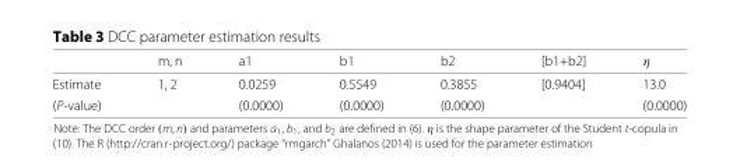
<table><thead><tr><td></td><td>m, n</td><td>a1</td><td>b1</td><td>b2</td><td>[b1+b2]</td><td>η</td></tr></thead><tbody><tr><td>Estimate</td><td>1, 2</td><td>0.0259</td><td>0.5549</td><td>0.3855</td><td>[0.9404]</td><td>13.0</td></tr><tr><td>(P-value)</td><td></td><td>(0.0000)</td><td>(0.0000)</td><td>(0.0000)</td><td></td><td>(0.0000)</td></tr></tbody></table>